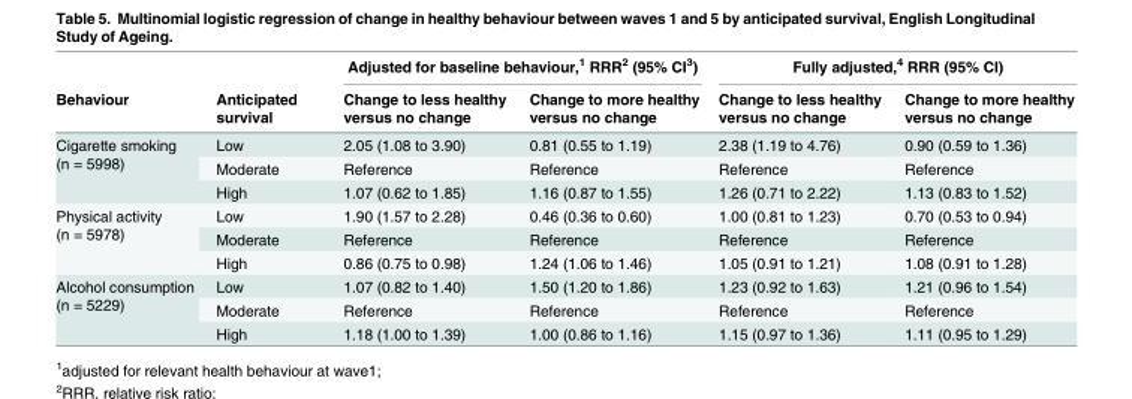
<table><thead><tr><td rowspan="2">Behaviour</td><td rowspan="2">Anticipated survival</td><td colspan="2">Adjusted for baseline behaviour,<sup>1</sup> RRR<sup>2</sup> (95% CI<sup>3</sup>)</td><td colspan="2">Fully adjusted,<sup>4</sup> RRR (95% CI)</td></tr><tr><td>Change to less healthy versus no change</td><td>Change to more healthy versus no change</td><td>Change to less healthy versus no change</td><td>Change to more healthy versus no change</td></tr></thead><tbody><tr><td rowspan="3">Cigarette smoking (n = 5998)</td><td>Low</td><td>2.05 (1.08 to 3.90)</td><td>0.81 (0.55 to 1.19)</td><td>2.38 (1.19 to 4.76)</td><td>0.90 (0.59 to 1.36)</td></tr><tr><td>Moderate</td><td>Reference</td><td>Reference</td><td>Reference</td><td>Reference</td></tr><tr><td>High</td><td>1.07 (0.62 to 1.85)</td><td>1.16 (0.87 to 1.55)</td><td>1.26 (0.71 to 2.22)</td><td>1.13 (0.83 to 1.52)</td></tr><tr><td rowspan="3">Physical activity (n = 5978)</td><td>Low</td><td>1.90 (1.57 to 2.28)</td><td>0.46 (0.36 to 0.60)</td><td>1.00 (0.81 to 1.23)</td><td>0.70 (0.53 to 0.94)</td></tr><tr><td>Moderate</td><td>Reference</td><td>Reference</td><td>Reference</td><td>Reference</td></tr><tr><td>High</td><td>0.86 (0.75 to 0.98)</td><td>1.24 (1.06 to 1.46)</td><td>1.05 (0.91 to 1.21)</td><td>1.08 (0.91 to 1.28)</td></tr><tr><td rowspan="3">Alcohol consumption (n = 5229)</td><td>Low</td><td>1.07 (0.82 to 1.40)</td><td>1.50 (1.20 to 1.86)</td><td>1.23 (0.92 to 1.63)</td><td>1.21 (0.96 to 1.54)</td></tr><tr><td>Moderate</td><td>Reference</td><td>Reference</td><td>Reference</td><td>Reference</td></tr><tr><td>High</td><td>1.18 (1.00 to 1.39)</td><td>1.00 (0.86 to 1.16)</td><td>1.15 (0.97 to 1.36)</td><td>1.11 (0.95 to 1.29)</td></tr></tbody></table>